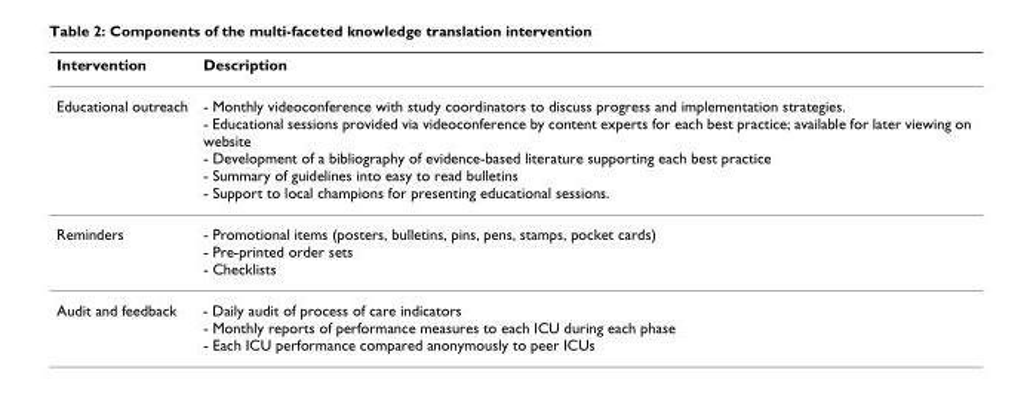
<table><thead><tr><td>Intervention</td><td>Description</td></tr></thead><tbody><tr><td>Educational outreach</td><td>- Monthly videoconference with study coordinators to discuss progress and implementation strategies. - Educational sessions provided via videoconference by content experts for each best practice; available for later viewing on website - Development of a bibliography of evidence-based literature supporting each best practice - Summary of guidelines into easy to read bulletins - Support to local champions for presenting educational sessions.</td></tr><tr><td>Reminders</td><td>- Promotional items (posters, bulletins, pins, pens, stamps, pocket cards) - Pre-printed order sets - Checklists</td></tr><tr><td>Audit and feedback</td><td>- Daily audit of process of care indicators - Monthly reports of performance measures to each ICU during each phase - Each ICU performance compared anonymously to peer ICUs</td></tr></tbody></table>